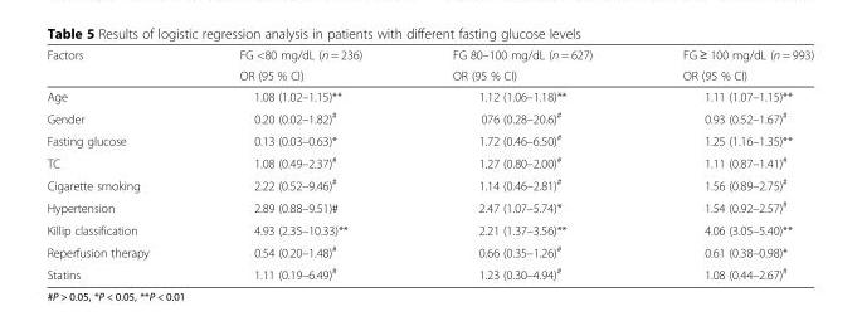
<table><thead><tr><td rowspan="2">Factors</td><td rowspan="2">FG &lt;80 mg/dL (n = 236) OR (95 % CI)</td><td rowspan="2">FG 80–100 mg/dL (n = 627) OR (95 % CI)</td><td rowspan="2">FG ≥ 100 mg/dL (n = 993) OR (95 % CI)</td></tr><tr></tr></thead><tbody><tr><td>Age</td><td>1.08 (1.02–1.15)**</td><td>1.12 (1.06–1.18)**</td><td>1.11 (1.07–1.15)**</td></tr><tr><td>Gender</td><td>0.20 (0.02–1.82)<sup>#</sup></td><td>076 (0.28–20.6)<sup>#</sup></td><td>0.93 (0.52–1.67)<sup>#</sup></td></tr><tr><td>Fasting glucose</td><td>0.13 (0.03–0.63)*</td><td>1.72 (0.46–6.50)<sup>#</sup></td><td>1.25 (1.16–1.35)**</td></tr><tr><td>TC</td><td>1.08 (0.49–2.37)<sup>#</sup></td><td>1.27 (0.80–2.00)<sup>#</sup></td><td>1.11 (0.87–1.41)<sup>#</sup></td></tr><tr><td>Cigarette smoking</td><td>2.22 (0.52–9.46)<sup>#</sup></td><td>1.14 (0.46–2.81)<sup>#</sup></td><td>1.56 (0.89–2.75)<sup>#</sup></td></tr><tr><td>Hypertension</td><td>2.89 (0.88–9.51)#</td><td>2.47 (1.07–5.74)*</td><td>1.54 (0.92–2.57)<sup>#</sup></td></tr><tr><td>Killip classification</td><td>4.93 (2.35–10.33)**</td><td>2.21 (1.37–3.56)**</td><td>4.06 (3.05–5.40)**</td></tr><tr><td>Reperfusion therapy</td><td>0.54 (0.20–1.48)<sup>#</sup></td><td>0.66 (0.35–1.26)<sup>#</sup></td><td>0.61 (0.38–0.98)*</td></tr><tr><td>Statins</td><td>1.11 (0.19–6.49)<sup>#</sup></td><td>1.23 (0.30–4.94)<sup>#</sup></td><td>1.08 (0.44–2.67)<sup>#</sup></td></tr></tbody></table>